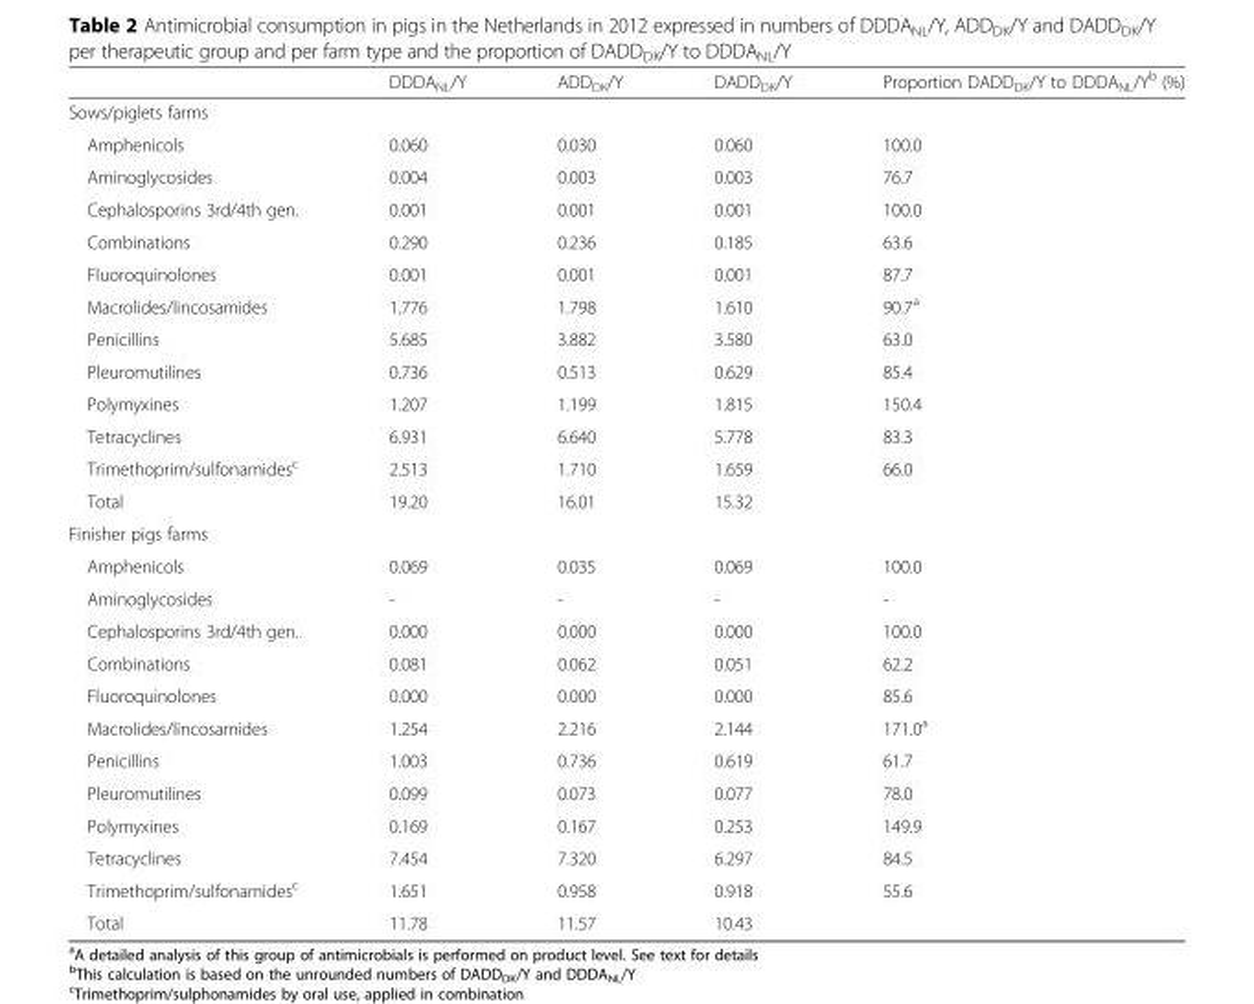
<table><thead><tr><td></td><td>DDDA<sub>NL</sub>/Y</td><td>ADD<sub>DK</sub>/Y</td><td>DADD<sub>DK</sub>/Y</td><td>Proportion DADD<sub>DK</sub>/Y to DDDA<sub>NL</sub>/Y<sup>b</sup> (%)</td></tr></thead><tbody><tr><td colspan="5">Sows/piglets farms</td></tr><tr><td>Amphenicols</td><td>0.060</td><td>0.030</td><td>0.060</td><td>100.0</td></tr><tr><td>Aminoglycosides</td><td>0.004</td><td>0.003</td><td>0.003</td><td>76.7</td></tr><tr><td>Cephalosporins 3rd/4th gen.</td><td>0.001</td><td>0.001</td><td>0.001</td><td>100.0</td></tr><tr><td>Combinations</td><td>0.290</td><td>0.236</td><td>0.185</td><td>63.6</td></tr><tr><td>Fluoroquinolones</td><td>0.001</td><td>0.001</td><td>0.001</td><td>87.7</td></tr><tr><td>Macrolides/lincosamides</td><td>1.776</td><td>1.798</td><td>1.610</td><td>90.7<sup>a</sup></td></tr><tr><td>Penicillins</td><td>5.685</td><td>3.882</td><td>3.580</td><td>63.0</td></tr><tr><td>Pleuromutilines</td><td>0.736</td><td>0.513</td><td>0.629</td><td>85.4</td></tr><tr><td>Polymyxines</td><td>1.207</td><td>1.199</td><td>1.815</td><td>150.4</td></tr><tr><td>Tetracyclines</td><td>6.931</td><td>6.640</td><td>5.778</td><td>83.3</td></tr><tr><td>Trimethoprim/sulfonamides<sup>c</sup></td><td>2.513</td><td>1.710</td><td>1.659</td><td>66.0</td></tr><tr><td>Total</td><td>19.20</td><td>16.01</td><td>15.32</td><td></td></tr><tr><td colspan="5">Finisher pigs farms</td></tr><tr><td>Amphenicols</td><td>0.069</td><td>0.035</td><td>0.069</td><td>100.0</td></tr><tr><td>Aminoglycosides</td><td>-</td><td>-</td><td>-</td><td>-</td></tr><tr><td>Cephalosporins 3rd/4th gen.</td><td>0.000</td><td>0.000</td><td>0.000</td><td>100.0</td></tr><tr><td>Combinations</td><td>0.081</td><td>0.062</td><td>0.051</td><td>62.2</td></tr><tr><td>Fluoroquinolones</td><td>0.000</td><td>0.000</td><td>0.000</td><td>85.6</td></tr><tr><td>Macrolides/lincosamides</td><td>1.254</td><td>2.216</td><td>2.144</td><td>171.0<sup>a</sup></td></tr><tr><td>Penicillins</td><td>1.003</td><td>0.736</td><td>0.619</td><td>61.7</td></tr><tr><td>Pleuromutilines</td><td>0.099</td><td>0.073</td><td>0.077</td><td>78.0</td></tr><tr><td>Polymyxines</td><td>0.169</td><td>0.167</td><td>0.253</td><td>149.9</td></tr><tr><td>Tetracyclines</td><td>7.454</td><td>7.320</td><td>6.297</td><td>84.5</td></tr><tr><td>Trimethoprim/sulfonamides<sup>c</sup></td><td>1.651</td><td>0.958</td><td>0.918</td><td>55.6</td></tr><tr><td>Total</td><td>11.78</td><td>11.57</td><td>10.43</td><td></td></tr></tbody></table>